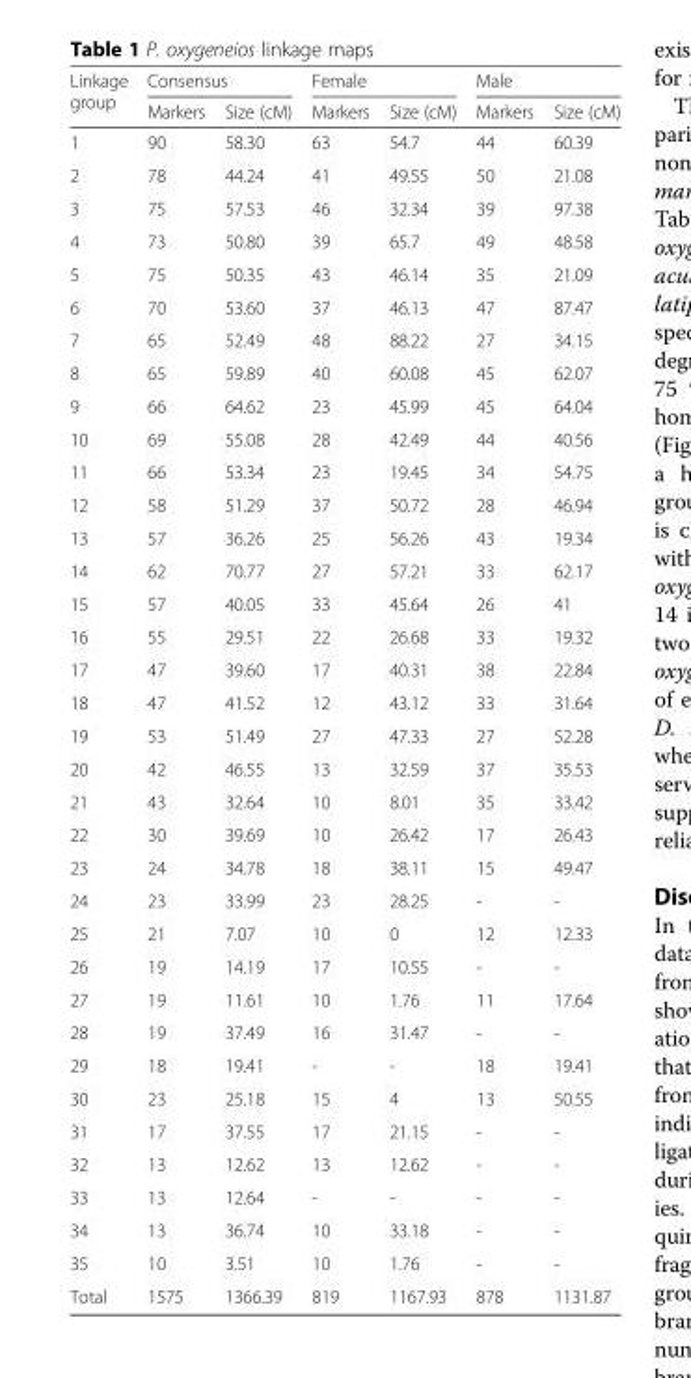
<table><thead><tr><td rowspan="2">Linkage group</td><td colspan="2">Consensus</td><td colspan="2">Female</td><td colspan="2">Male</td></tr><tr><td>Markers</td><td>Size (cM)</td><td>Markers</td><td>Size (cM)</td><td>Markers</td><td>Size (cM)</td></tr></thead><tbody><tr><td>1</td><td>90</td><td>58.30</td><td>63</td><td>54.7</td><td>44</td><td>60.39</td></tr><tr><td>2</td><td>78</td><td>44.24</td><td>41</td><td>49.55</td><td>50</td><td>21.08</td></tr><tr><td>3</td><td>75</td><td>57.53</td><td>46</td><td>32.34</td><td>39</td><td>97.38</td></tr><tr><td>4</td><td>73</td><td>50.80</td><td>39</td><td>65.7</td><td>49</td><td>48.58</td></tr><tr><td>5</td><td>75</td><td>50.35</td><td>43</td><td>46.14</td><td>35</td><td>21.09</td></tr><tr><td>6</td><td>70</td><td>53.60</td><td>37</td><td>46.13</td><td>47</td><td>87.47</td></tr><tr><td>7</td><td>65</td><td>52.49</td><td>48</td><td>88.22</td><td>27</td><td>34.15</td></tr><tr><td>8</td><td>65</td><td>59.89</td><td>40</td><td>60.08</td><td>45</td><td>62.07</td></tr><tr><td>9</td><td>66</td><td>64.62</td><td>23</td><td>45.99</td><td>45</td><td>64.04</td></tr><tr><td>10</td><td>69</td><td>55.08</td><td>28</td><td>42.49</td><td>44</td><td>40.56</td></tr><tr><td>11</td><td>66</td><td>53.34</td><td>23</td><td>19.45</td><td>34</td><td>54.75</td></tr><tr><td>12</td><td>58</td><td>51.29</td><td>37</td><td>50.72</td><td>28</td><td>46.94</td></tr><tr><td>13</td><td>57</td><td>36.26</td><td>25</td><td>56.26</td><td>43</td><td>19.34</td></tr><tr><td>14</td><td>62</td><td>70.77</td><td>27</td><td>57.21</td><td>33</td><td>62.17</td></tr><tr><td>15</td><td>57</td><td>40.05</td><td>33</td><td>45.64</td><td>26</td><td>41</td></tr><tr><td>16</td><td>55</td><td>29.51</td><td>22</td><td>26.68</td><td>33</td><td>19.32</td></tr><tr><td>17</td><td>47</td><td>39.60</td><td>17</td><td>40.31</td><td>38</td><td>22.84</td></tr><tr><td>18</td><td>47</td><td>41.52</td><td>12</td><td>43.12</td><td>33</td><td>31.64</td></tr><tr><td>19</td><td>53</td><td>51.49</td><td>27</td><td>47.33</td><td>27</td><td>52.28</td></tr><tr><td>20</td><td>42</td><td>46.55</td><td>13</td><td>32.59</td><td>37</td><td>35.53</td></tr><tr><td>21</td><td>43</td><td>32.64</td><td>10</td><td>8.01</td><td>35</td><td>33.42</td></tr><tr><td>22</td><td>30</td><td>39.69</td><td>10</td><td>26.42</td><td>17</td><td>26.43</td></tr><tr><td>23</td><td>24</td><td>34.78</td><td>18</td><td>38.11</td><td>15</td><td>49.47</td></tr><tr><td>24</td><td>23</td><td>33.99</td><td>23</td><td>28.25</td><td>-</td><td>-</td></tr><tr><td>25</td><td>21</td><td>7.07</td><td>10</td><td>0</td><td>12</td><td>12.33</td></tr><tr><td>26</td><td>19</td><td>14.19</td><td>17</td><td>10.55</td><td>-</td><td>-</td></tr><tr><td>27</td><td>19</td><td>11.61</td><td>10</td><td>1.76</td><td>11</td><td>17.64</td></tr><tr><td>28</td><td>19</td><td>37.49</td><td>16</td><td>31.47</td><td>-</td><td>-</td></tr><tr><td>29</td><td>18</td><td>19.41</td><td>-</td><td>-</td><td>18</td><td>19.41</td></tr><tr><td>30</td><td>23</td><td>25.18</td><td>15</td><td>4</td><td>13</td><td>50.55</td></tr><tr><td>31</td><td>17</td><td>37.55</td><td>17</td><td>21.15</td><td>-</td><td>-</td></tr><tr><td>32</td><td>13</td><td>12.62</td><td>13</td><td>12.62</td><td>-</td><td>-</td></tr><tr><td>33</td><td>13</td><td>12.64</td><td>-</td><td>-</td><td>-</td><td>-</td></tr><tr><td>34</td><td>13</td><td>36.74</td><td>10</td><td>33.18</td><td>-</td><td>-</td></tr><tr><td>35</td><td>10</td><td>3.51</td><td>10</td><td>1.76</td><td>-</td><td>-</td></tr><tr><td>Total</td><td>1575</td><td>1366.39</td><td>819</td><td>1167.93</td><td>878</td><td>1131.87</td></tr></tbody></table>